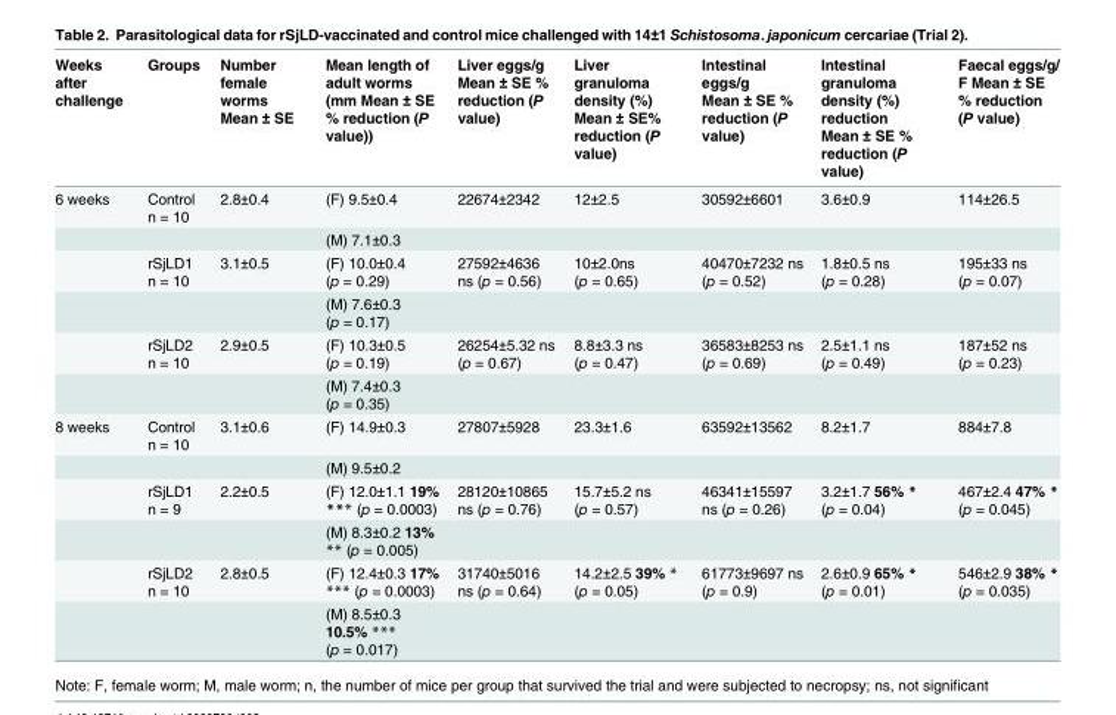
<table><thead><tr><td>Weeks after challenge</td><td>Groups</td><td>Number female worms Mean ± SE</td><td>Mean length of adult worms (mm Mean ± SE % reduction (P value))</td><td>Liver eggs/g Mean ± SE % reduction (P value)</td><td>Liver granuloma density (%) Mean ± SE% reduction (P value)</td><td>Intestinal eggs/g Mean ± SE % reduction (P value)</td><td>Intestinal granuloma density (%) reduction Mean ± SE % reduction (P value)</td><td>Faecal eggs/g/ F Mean ± SE % reduction (P value)</td></tr></thead><tbody><tr><td rowspan="6">6 weeks</td><td>Control n = 10</td><td>2.8±0.4</td><td>(F) 9.5±0.4</td><td>22674±2342</td><td>12±2.5</td><td>30592±6601</td><td>3.6±0.9</td><td>114±26.5</td></tr><tr><td></td><td></td><td>(M) 7.1±0.3</td><td></td><td></td><td></td><td></td><td></td></tr><tr><td>rSjLD1 n = 10</td><td>3.1±0.5</td><td>(F) 10.0±0.4 (p = 0.29)</td><td>27592±4636 ns (p = 0.56)</td><td>10±2.0ns (p = 0.65)</td><td>40470±7232 ns (p = 0.52)</td><td>1.8±0.5 ns (p = 0.28)</td><td>195±33 ns (p = 0.07)</td></tr><tr><td></td><td></td><td>(M) 7.6±0.3 (p = 0.17)</td><td></td><td></td><td></td><td></td><td></td></tr><tr><td>rSjLD2 n = 10</td><td>2.9±0.5</td><td>(F) 10.3±0.5 (p = 0.19)</td><td>26254±5.32 ns (p = 0.67)</td><td>8.8±3.3 ns (p = 0.47)</td><td>36583±8253 ns (p = 0.69)</td><td>2.5±1.1 ns (p = 0.49)</td><td>187±52 ns (p = 0.23)</td></tr><tr><td></td><td></td><td>(M) 7.4±0.3 (p = 0.35)</td><td></td><td></td><td></td><td></td><td></td></tr><tr><td rowspan="6">8 weeks</td><td>Control n = 10</td><td>3.1±0.6</td><td>(F) 14.9±0.3</td><td>27807±5928</td><td>23.3±1.6</td><td>63592±13562</td><td>8.2±1.7</td><td>884±7.8</td></tr><tr><td></td><td></td><td>(M) 9.5±0.2</td><td></td><td></td><td></td><td></td><td></td></tr><tr><td>rSjLD1 n = 9</td><td>2.2±0.5</td><td>(F) 12.0±1.1 19% *** (p = 0.0003)</td><td>28120±10865 ns (p = 0.76)</td><td>15.7±5.2 ns (p = 0.57)</td><td>46341±15597 ns (p = 0.26)</td><td>3.2±1.7 56% * (p = 0.04)</td><td>467±2.4 47% * (p = 0.045)</td></tr><tr><td></td><td></td><td>(M) 8.3±0.2 13% ** (p = 0.005)</td><td></td><td></td><td></td><td></td><td></td></tr><tr><td>rSjLD2 n = 10</td><td>2.8±0.5</td><td>(F) 12.4±0.3 17% *** (p = 0.0003)</td><td>31740±5016 ns (p = 0.64)</td><td>14.2±2.5 39% * (p = 0.05)</td><td>61773±9697 ns (p = 0.9)</td><td>2.6±0.9 65% * (p = 0.01)</td><td>546±2.9 38% * (p = 0.035)</td></tr><tr><td></td><td></td><td>(M) 8.5±0.3 10.5% *** (p = 0.017)</td><td></td><td></td><td></td><td></td><td></td></tr></tbody></table>